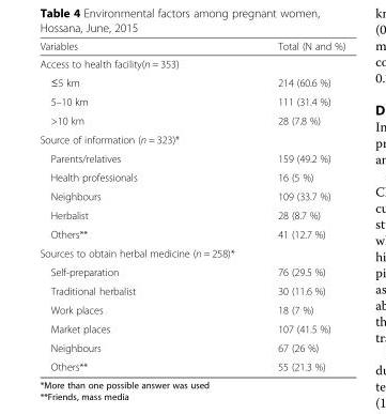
<table><thead><tr><td>Variables</td><td>Total (N and %)</td></tr></thead><tbody><tr><td colspan="2">Access to health facility(n = 353)</td></tr><tr><td>≤5 km</td><td>214 (60.6 %)</td></tr><tr><td>5–10 km</td><td>111 (31.4 %)</td></tr><tr><td>&gt;10 km</td><td>28 (7.8 %)</td></tr><tr><td colspan="2">Source of information (n = 323)*</td></tr><tr><td>Parents/relatives</td><td>159 (49.2 %)</td></tr><tr><td>Health professionals</td><td>16 (5 %)</td></tr><tr><td>Neighbours</td><td>109 (33.7 %)</td></tr><tr><td>Herbalist</td><td>28 (8.7 %)</td></tr><tr><td>Others**</td><td>41 (12.7 %)</td></tr><tr><td colspan="2">Sources to obtain herbal medicine (n = 258)*</td></tr><tr><td>Self-preparation</td><td>76 (29.5 %)</td></tr><tr><td>Traditional herbalist</td><td>30 (11.6 %)</td></tr><tr><td>Work places</td><td>18 (7 %)</td></tr><tr><td>Market places</td><td>107 (41.5 %)</td></tr><tr><td>Neighbours</td><td>67 (26 %)</td></tr><tr><td>Others**</td><td>55 (21.3 %)</td></tr></tbody></table>